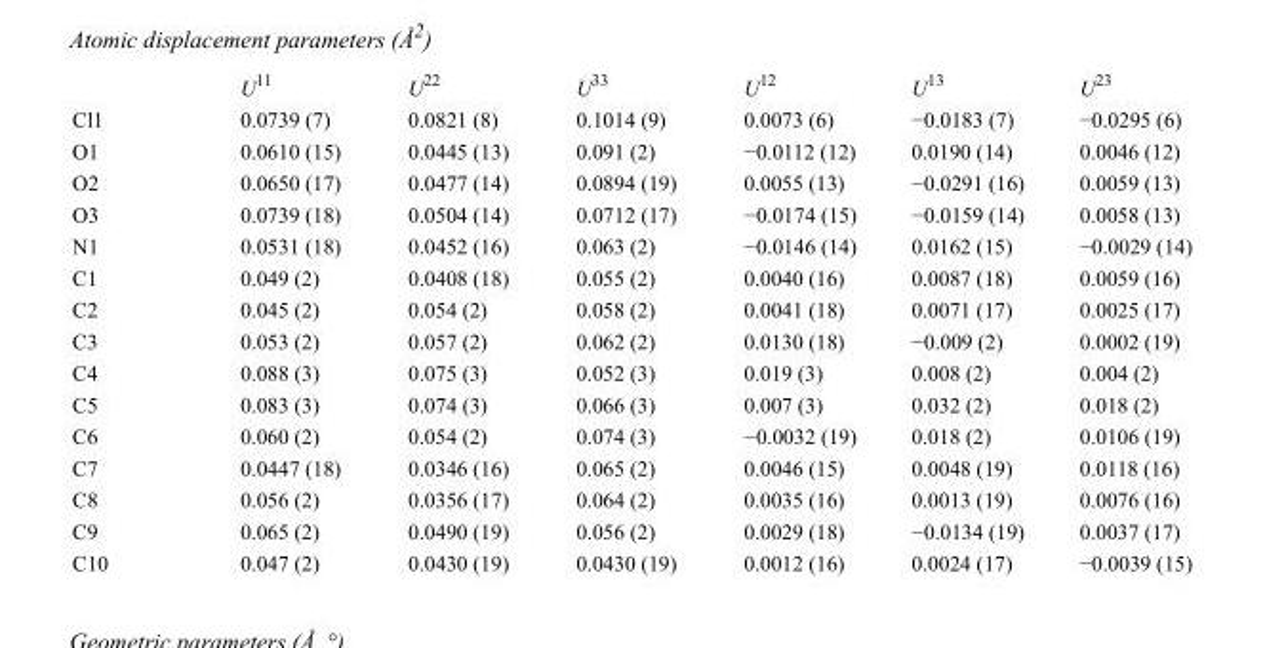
<table><thead><tr><td></td><td>U<sup>11</sup></td><td>U<sup>22</sup></td><td>U<sup>33</sup></td><td>U<sup>12</sup></td><td>U<sup>13</sup></td><td>U<sup>23</sup></td></tr></thead><tbody><tr><td>Cl1</td><td>0.0739 (7)</td><td>0.0821 (8)</td><td>0.1014 (9)</td><td>0.0073 (6)</td><td>−0.0183 (7)</td><td>−0.0295 (6)</td></tr><tr><td>O1</td><td>0.0610 (15)</td><td>0.0445 (13)</td><td>0.091 (2)</td><td>−0.0112 (12)</td><td>0.0190 (14)</td><td>0.0046 (12)</td></tr><tr><td>O2</td><td>0.0650 (17)</td><td>0.0477 (14)</td><td>0.0894 (19)</td><td>0.0055 (13)</td><td>−0.0291 (16)</td><td>0.0059 (13)</td></tr><tr><td>O3</td><td>0.0739 (18)</td><td>0.0504 (14)</td><td>0.0712 (17)</td><td>−0.0174 (15)</td><td>−0.0159 (14)</td><td>0.0058 (13)</td></tr><tr><td>N1</td><td>0.0531 (18)</td><td>0.0452 (16)</td><td>0.063 (2)</td><td>−0.0146 (14)</td><td>0.0162 (15)</td><td>−0.0029 (14)</td></tr><tr><td>C1</td><td>0.049 (2)</td><td>0.0408 (18)</td><td>0.055 (2)</td><td>0.0040 (16)</td><td>0.0087 (18)</td><td>0.0059 (16)</td></tr><tr><td>C2</td><td>0.045 (2)</td><td>0.054 (2)</td><td>0.058 (2)</td><td>0.0041 (18)</td><td>0.0071 (17)</td><td>0.0025 (17)</td></tr><tr><td>C3</td><td>0.053 (2)</td><td>0.057 (2)</td><td>0.062 (2)</td><td>0.0130 (18)</td><td>−0.009 (2)</td><td>0.0002 (19)</td></tr><tr><td>C4</td><td>0.088 (3)</td><td>0.075 (3)</td><td>0.052 (3)</td><td>0.019 (3)</td><td>0.008 (2)</td><td>0.004 (2)</td></tr><tr><td>C5</td><td>0.083 (3)</td><td>0.074 (3)</td><td>0.066 (3)</td><td>0.007 (3)</td><td>0.032 (2)</td><td>0.018 (2)</td></tr><tr><td>C6</td><td>0.060 (2)</td><td>0.054 (2)</td><td>0.074 (3)</td><td>−0.0032 (19)</td><td>0.018 (2)</td><td>0.0106 (19)</td></tr><tr><td>C7</td><td>0.0447 (18)</td><td>0.0346 (16)</td><td>0.065 (2)</td><td>0.0046 (15)</td><td>0.0048 (19)</td><td>0.0118 (16)</td></tr><tr><td>C8</td><td>0.056 (2)</td><td>0.0356 (17)</td><td>0.064 (2)</td><td>0.0035 (16)</td><td>0.0013 (19)</td><td>0.0076 (16)</td></tr><tr><td>C9</td><td>0.065 (2)</td><td>0.0490 (19)</td><td>0.056 (2)</td><td>0.0029 (18)</td><td>−0.0134 (19)</td><td>0.0037 (17)</td></tr><tr><td>C10</td><td>0.047 (2)</td><td>0.0430 (19)</td><td>0.0430 (19)</td><td>0.0012 (16)</td><td>0.0024 (17)</td><td>−0.0039 (15)</td></tr></tbody></table>